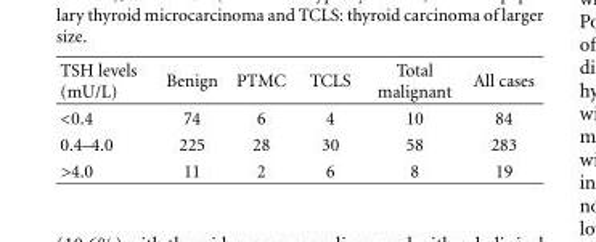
<table><thead><tr><td>TSH levels (mU/L)</td><td>Benign</td><td>PTMC</td><td>TCLS</td><td>Total malignant</td><td>All cases</td></tr></thead><tbody><tr><td>&lt;0.4</td><td>74</td><td>6</td><td>4</td><td>10</td><td>84</td></tr><tr><td>0.4–4.0</td><td>225</td><td>28</td><td>30</td><td>58</td><td>283</td></tr><tr><td>&gt;4.0</td><td>11</td><td>2</td><td>6</td><td>8</td><td>19</td></tr></tbody></table>